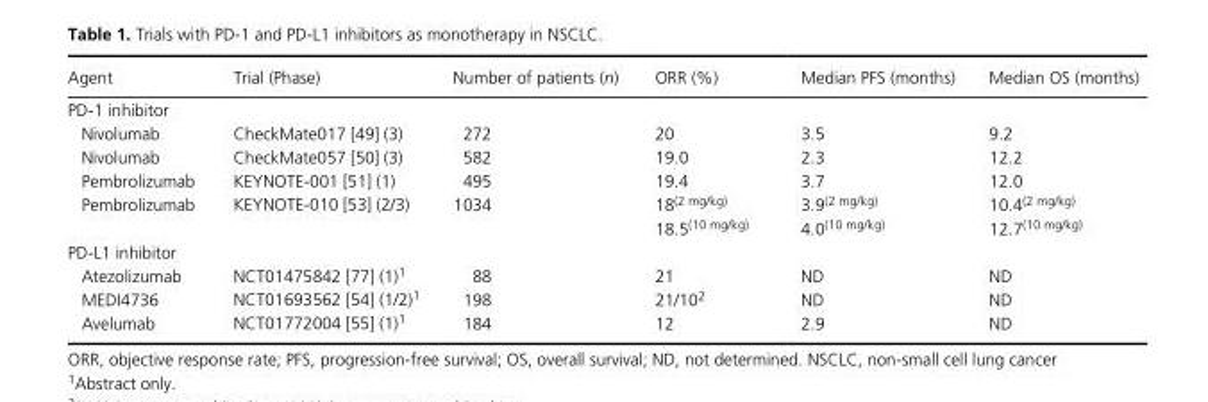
<table><thead><tr><td>Agent</td><td>Trial (Phase)</td><td>Number of patients (n)</td><td>ORR (%)</td><td>Median PFS (months)</td><td>Median OS (months)</td></tr></thead><tbody><tr><td colspan="6">PD- 1 inhibitor</td></tr><tr><td>Nivolumab</td><td>CheckMate017 [49] (3)</td><td>272</td><td>20</td><td>3.5</td><td>9.2</td></tr><tr><td>Nivolumab</td><td>CheckMate057 [50] (3)</td><td>582</td><td>19.0</td><td>2.3</td><td>12.2</td></tr><tr><td>Pembrolizumab</td><td>KEYNOTE- 001 [51] (1)</td><td>495</td><td>19.4</td><td>3.7</td><td>12.0</td></tr><tr><td>Pembrolizumab</td><td>KEYNOTE- 010 [53] (2/3)</td><td>1034</td><td>18<sup>(2 mg/kg)</sup> 18.5<sup>(10 mg/kg)</sup></td><td>3.9<sup>(2 mg/kg)</sup> 4.0<sup>(10 mg/kg)</sup></td><td>10.4<sup>(2 mg/kg)</sup> 12.7<sup>(10 mg/kg)</sup></td></tr><tr><td colspan="6">PD- L1 inhibitor</td></tr><tr><td>Atezolizumab</td><td>NCT01475842 [77] (1)1</td><td>88</td><td>21</td><td>ND</td><td>ND</td></tr><tr><td>MEDI4736</td><td>NCT01693562 [54] (1/2)1</td><td>198</td><td>21/102</td><td>ND</td><td>ND</td></tr><tr><td>Avelumab</td><td>NCT01772004 [55] (1)1</td><td>184</td><td>12</td><td>2.9</td><td>ND</td></tr></tbody></table>